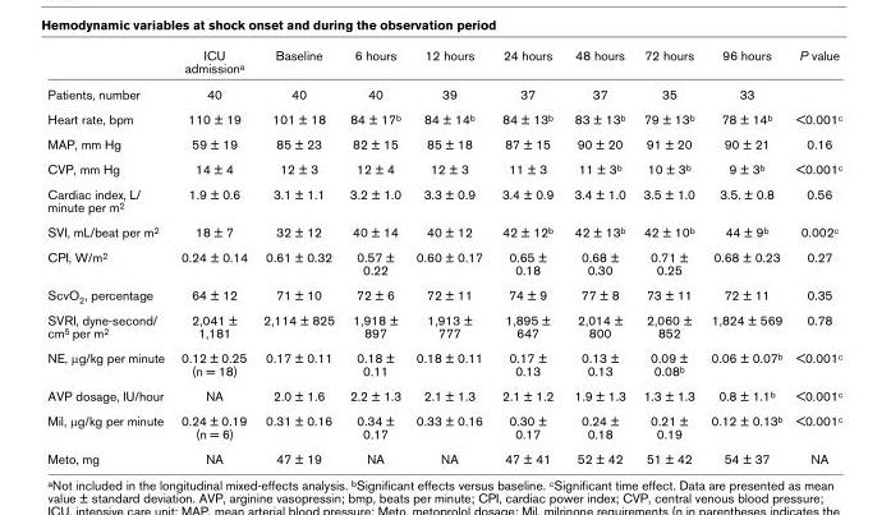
<table><thead><tr><td></td><td>ICU admission<sup>a</sup></td><td>Baseline</td><td>6 hours</td><td>12 hours</td><td>24 hours</td><td>48 hours</td><td>72 hours</td><td>96 hours</td><td>P value</td></tr></thead><tbody><tr><td>Patients, number</td><td>40</td><td>40</td><td>40</td><td>39</td><td>37</td><td>37</td><td>35</td><td>33</td><td></td></tr><tr><td>Heart rate, bpm</td><td>110 ± 19</td><td>101 ± 18</td><td>84 ± 17<sup>b</sup></td><td>84 ± 14<sup>b</sup></td><td>84 ± 13<sup>b</sup></td><td>83 ± 13<sup>b</sup></td><td>79 ± 13<sup>b</sup></td><td>78 ± 14<sup>b</sup></td><td>&lt;0.001<sup>c</sup></td></tr><tr><td>MAP, mm Hg</td><td>59 ± 19</td><td>85 ± 23</td><td>82 ± 15</td><td>85 ± 18</td><td>87 ± 15</td><td>90 ± 20</td><td>91 ± 20</td><td>90 ± 21</td><td>0.16</td></tr><tr><td>CVP, mm Hg</td><td>14 ± 4</td><td>12 ± 3</td><td>12 ± 4</td><td>12 ± 3</td><td>11 ± 3</td><td>11 ± 3<sup>b</sup></td><td>10 ± 3<sup>b</sup></td><td>9 ± 3<sup>b</sup></td><td>&lt;0.001<sup>c</sup></td></tr><tr><td>Cardiac index, L/ minute per m<sup>2</sup></td><td>1.9 ± 0.6</td><td>3.1 ± 1.1</td><td>3.2 ± 1.0</td><td>3.3 ± 0.9</td><td>3.4 ± 0.9</td><td>3.4 ± 1.0</td><td>3.5 ± 1.0</td><td>3.5. ± 0.8</td><td>0.56</td></tr><tr><td>SVI, mL/beat per m<sup>2</sup></td><td>18 ± 7</td><td>32 ± 12</td><td>40 ± 14</td><td>40 ± 12</td><td>42 ± 12<sup>b</sup></td><td>42 ± 13<sup>b</sup></td><td>42 ± 10<sup>b</sup></td><td>44 ± 9<sup>b</sup></td><td>0.002<sup>c</sup></td></tr><tr><td>CPI, W/m<sup>2</sup></td><td>0.24 ± 0.14</td><td>0.61 ± 0.32</td><td>0.57 ± 0.22</td><td>0.60 ± 0.17</td><td>0.65 ± 0.18</td><td>0.68 ± 0.30</td><td>0.71 ± 0.25</td><td>0.68 ± 0.23</td><td>0.27</td></tr><tr><td>ScvO<sub>2</sub>, percentage</td><td>64 ± 12</td><td>71 ± 10</td><td>72 ± 6</td><td>72 ± 11</td><td>74 ± 9</td><td>77 ± 8</td><td>73 ± 11</td><td>72 ± 11</td><td>0.35</td></tr><tr><td>SVRI, dyne-second/ cm<sup>5</sup> per m<sup>2</sup></td><td>2,041 ± 1,181</td><td>2,114 ± 825</td><td>1,918 ± 897</td><td>1,913 ± 777</td><td>1,895 ± 647</td><td>2,014 ± 800</td><td>2,060 ± 852</td><td>1,824 ± 569</td><td>0.78</td></tr><tr><td>NE, μg/kg per minute</td><td>0.12 ± 0.25 (n = 18)</td><td>0.17 ± 0.11</td><td>0.18 ± 0.11</td><td>0.18 ± 0.11</td><td>0.17 ± 0.13</td><td>0.13 ± 0.13</td><td>0.09 ± 0.08<sup>b</sup></td><td>0.06 ± 0.07<sup>b</sup></td><td>&lt;0.001<sup>c</sup></td></tr><tr><td>AVP dosage, IU/hour</td><td>NA</td><td>2.0 ± 1.6</td><td>2.2 ± 1.3</td><td>2.1 ± 1.3</td><td>2.1 ± 1.2</td><td>1.9 ± 1.3</td><td>1.3 ± 1.3</td><td>0.8 ± 1.1<sup>b</sup></td><td>&lt;0.001<sup>c</sup></td></tr><tr><td>Mil, μg/kg per minute</td><td>0.24 ± 0.19 (n = 6)</td><td>0.31 ± 0.16</td><td>0.34 ± 0.17</td><td>0.33 ± 0.16</td><td>0.30 ± 0.17</td><td>0.24 ± 0.18</td><td>0.21 ± 0.19</td><td>0.12 ± 0.13<sup>b</sup></td><td>&lt;0.001<sup>c</sup></td></tr><tr><td>Meto, mg</td><td>NA</td><td>47 ± 19</td><td>NA</td><td>NA</td><td>47 ± 41</td><td>52 ± 42</td><td>51 ± 42</td><td>54 ± 37</td><td>NA</td></tr></tbody></table>